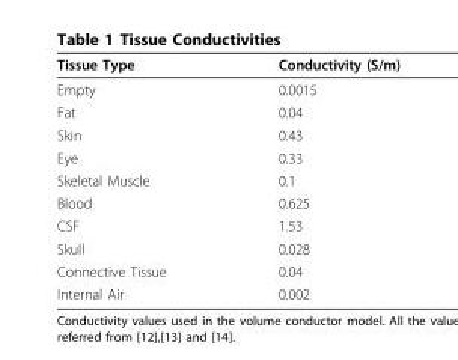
<table><thead><tr><td>Tissue Type</td><td>Conductivity (S/m)</td></tr></thead><tbody><tr><td>Empty</td><td>0.0015</td></tr><tr><td>Fat</td><td>0.04</td></tr><tr><td>Skin</td><td>0.43</td></tr><tr><td>Eye</td><td>0.33</td></tr><tr><td>Skeletal Muscle</td><td>0.1</td></tr><tr><td>Blood</td><td>0.625</td></tr><tr><td>CSF</td><td>1.53</td></tr><tr><td>Skull</td><td>0.028</td></tr><tr><td>Connective Tissue</td><td>0.04</td></tr><tr><td>Internal Air</td><td>0.002</td></tr></tbody></table>